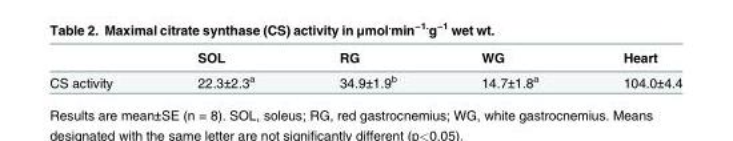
<table><thead><tr><td></td><td>SOL</td><td>RG</td><td>WG</td><td>Heart</td></tr></thead><tbody><tr><td>CS activity</td><td>22.3±2.3<sup>a</sup></td><td>34.9±1.9<sup>b</sup></td><td>14.7±1.8<sup>a</sup></td><td>104.0±4.4</td></tr></tbody></table>